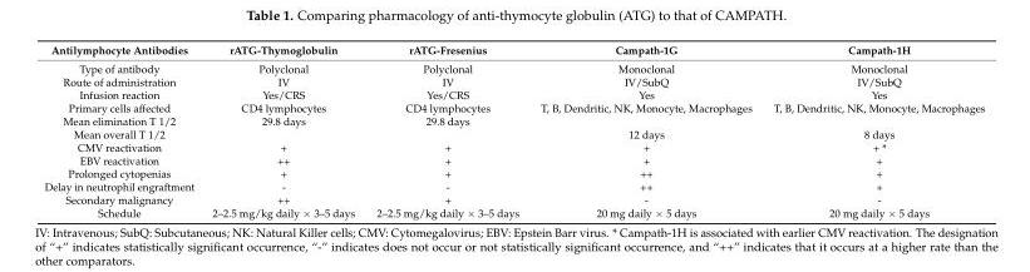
<table><thead><tr><td>Antilymphocyte Antibodies</td><td>rATG-Thymoglobulin</td><td>rATG-Fresenius</td><td>Campath-1G</td><td>Campath-1H</td></tr></thead><tbody><tr><td>Type of antibody</td><td>Polyclonal</td><td>Polyclonal</td><td>Monoclonal</td><td>Monoclonal</td></tr><tr><td>Route of administration</td><td>IV</td><td>IV</td><td>IV/SubQ</td><td>IV/SubQ</td></tr><tr><td>Infusion reaction</td><td>Yes/CRS</td><td>Yes/CRS</td><td>Yes</td><td>Yes</td></tr><tr><td>Primary cells affected</td><td>CD4 lymphocytes</td><td>CD4 lymphocytes</td><td>T, B, Dendritic, NK, Monocyte, Macrophages</td><td>T, B, Dendritic, NK, Monocyte, Macrophages</td></tr><tr><td>Mean elimination T 1/2</td><td>29.8 days</td><td>29.8 days</td><td></td><td></td></tr><tr><td>Mean overall T 1/2</td><td></td><td></td><td>12 days</td><td>8 days</td></tr><tr><td>CMV reactivation</td><td>+</td><td>+</td><td>+</td><td>+ *</td></tr><tr><td>EBV reactivation</td><td>++</td><td>+</td><td>+</td><td>+</td></tr><tr><td>Prolonged cytopenias</td><td>+</td><td>+</td><td>++</td><td>+</td></tr><tr><td>Delay in neutrophil engraftment</td><td>-</td><td>-</td><td>++</td><td>+</td></tr><tr><td>Secondary malignancy</td><td>++</td><td>+</td><td>-</td><td>-</td></tr><tr><td>Schedule</td><td>2–2.5 mg/kg daily × 3–5 days</td><td>2–2.5 mg/kg daily × 3–5 days</td><td>20 mg daily × 5 days</td><td>20 mg daily × 5 days</td></tr></tbody></table>